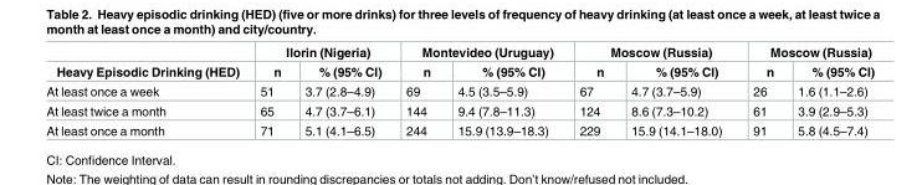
<table><thead><tr><td rowspan="2">Heavy Episodic Drinking (HED)</td><td colspan="2">Ilorin (Nigeria)</td><td colspan="2">Montevideo (Uruguay)</td><td colspan="2">Moscow (Russia)</td><td colspan="2">Moscow (Russia)</td></tr><tr><td>n</td><td>% (95% CI)</td><td>n</td><td>% (95% CI)</td><td>n</td><td>% (95% CI)</td><td>n</td><td>% (95% CI)</td></tr></thead><tbody><tr><td>At least once a week</td><td>51</td><td>3.7 (2.8–4.9)</td><td>69</td><td>4.5 (3.5–5.9)</td><td>67</td><td>4.7 (3.7–5.9)</td><td>26</td><td>1.6 (1.1–2.6)</td></tr><tr><td>At least twice a month</td><td>65</td><td>4.7 (3.7–6.1)</td><td>144</td><td>9.4 (7.8–11.3)</td><td>124</td><td>8.6 (7.3–10.2)</td><td>61</td><td>3.9 (2.9–5.3)</td></tr><tr><td>At least once a month</td><td>71</td><td>5.1 (4.1–6.5)</td><td>244</td><td>15.9 (13.9–18.3)</td><td>229</td><td>15.9 (14.1–18.0)</td><td>91</td><td>5.8 (4.5–7.4)</td></tr></tbody></table>